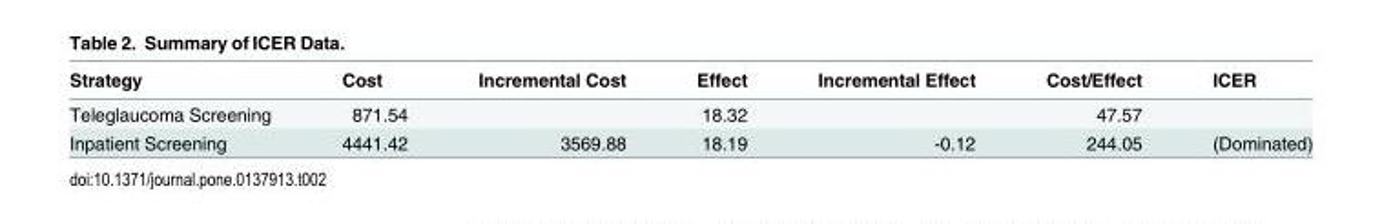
<table><thead><tr><td>Strategy</td><td>Cost</td><td>Incremental Cost</td><td>Effect</td><td>Incremental Effect</td><td>Cost/Effect</td><td>ICER</td></tr></thead><tbody><tr><td>Teleglaucoma Screening</td><td>871.54</td><td></td><td>18.32</td><td></td><td>47.57</td><td></td></tr><tr><td>Inpatient Screening</td><td>4441.42</td><td>3569.88</td><td>18.19</td><td>-0.12</td><td>244.05</td><td>(Dominated)</td></tr></tbody></table>